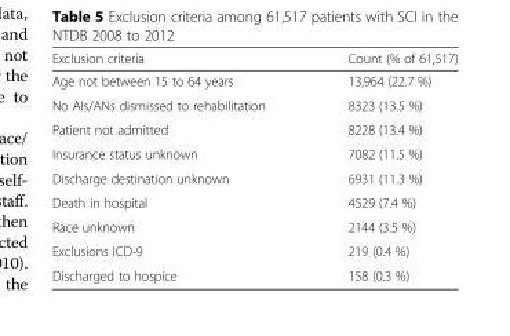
<table><thead><tr><td>Exclusion criteria</td><td>Count (% of 61,517)</td></tr></thead><tbody><tr><td>Age not between 15 to 64 years</td><td>13,964 (22.7 %)</td></tr><tr><td>No AIs/ANs dismissed to rehabilitation</td><td>8323 (13.5 %)</td></tr><tr><td>Patient not admitted</td><td>8228 (13.4 %)</td></tr><tr><td>Insurance status unknown</td><td>7082 (11.5 %)</td></tr><tr><td>Discharge destination unknown</td><td>6931 (11.3 %)</td></tr><tr><td>Death in hospital</td><td>4529 (7.4 %)</td></tr><tr><td>Race unknown</td><td>2144 (3.5 %)</td></tr><tr><td>Exclusions ICD-9</td><td>219 (0.4 %)</td></tr><tr><td>Discharged to hospice</td><td>158 (0.3 %)</td></tr></tbody></table>